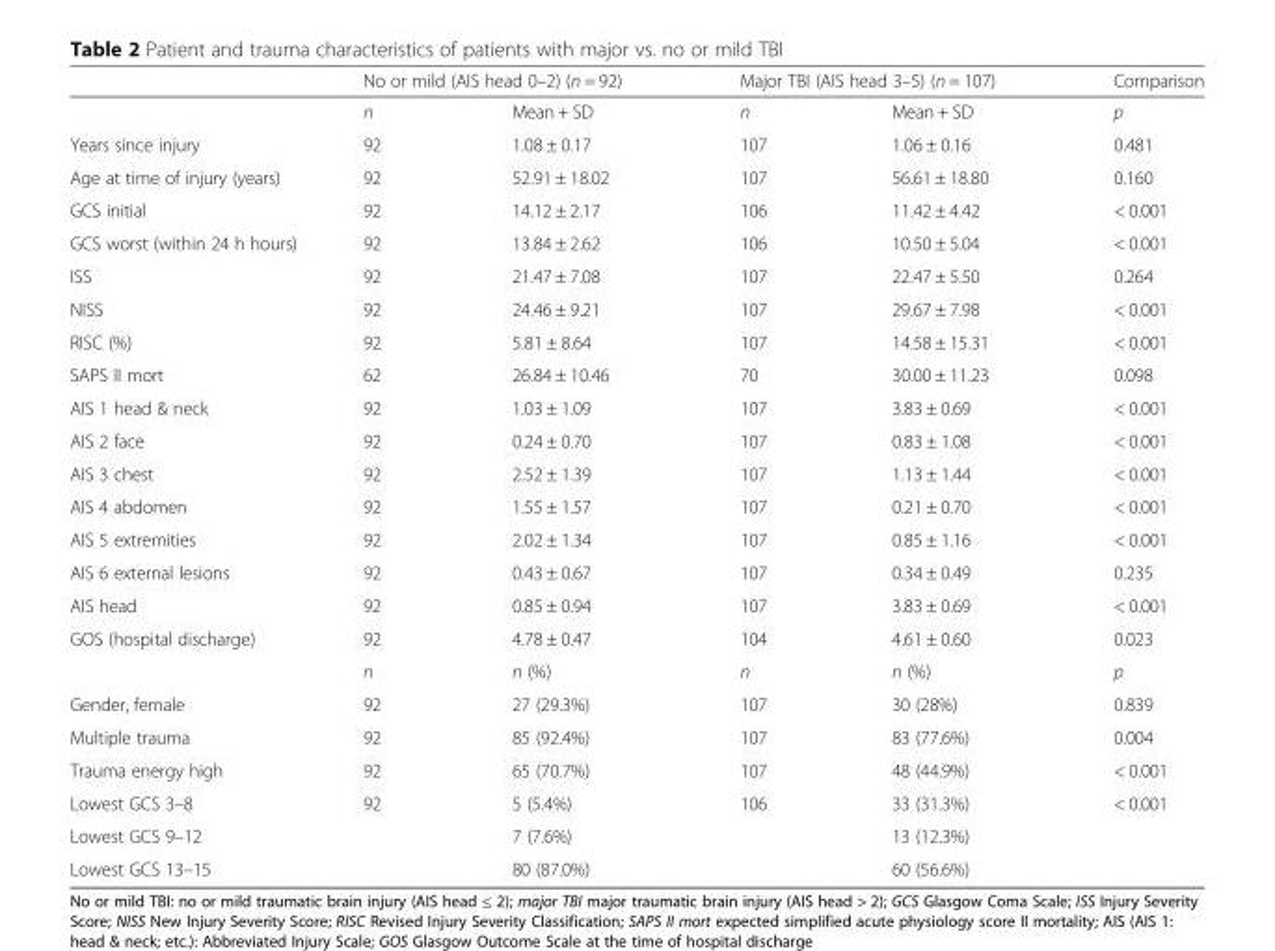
<table><thead><tr><td rowspan="2"></td><td colspan="2">No or mild (AIS head 0–2) (n = 92)</td><td colspan="2">Major TBI (AIS head 3–5) (n = 107)</td><td rowspan="2">Comparison p</td></tr><tr><td>n</td><td>Mean + SD</td><td>n</td><td>Mean + SD</td></tr></thead><tbody><tr><td>Years since injury</td><td>92</td><td>1.08 ± 0.17</td><td>107</td><td>1.06 ± 0.16</td><td>0.481</td></tr><tr><td>Age at time of injury (years)</td><td>92</td><td>52.91 ± 18.02</td><td>107</td><td>56.61 ± 18.80</td><td>0.160</td></tr><tr><td>GCS initial</td><td>92</td><td>14.12 ± 2.17</td><td>106</td><td>11.42 ± 4.42</td><td>&lt; 0.001</td></tr><tr><td>GCS worst (within 24 h hours)</td><td>92</td><td>13.84 ± 2.62</td><td>106</td><td>10.50 ± 5.04</td><td>&lt; 0.001</td></tr><tr><td>ISS</td><td>92</td><td>21.47 ± 7.08</td><td>107</td><td>22.47 ± 5.50</td><td>0.264</td></tr><tr><td>NISS</td><td>92</td><td>24.46 ± 9.21</td><td>107</td><td>29.67 ± 7.98</td><td>&lt; 0.001</td></tr><tr><td>RISC (%)</td><td>92</td><td>5.81 ± 8.64</td><td>107</td><td>14.58 ± 15.31</td><td>&lt; 0.001</td></tr><tr><td>SAPS II mort</td><td>62</td><td>26.84 ± 10.46</td><td>70</td><td>30.00 ± 11.23</td><td>0.098</td></tr><tr><td>AIS 1 head &amp; neck</td><td>92</td><td>1.03 ± 1.09</td><td>107</td><td>3.83 ± 0.69</td><td>&lt; 0.001</td></tr><tr><td>AIS 2 face</td><td>92</td><td>0.24 ± 0.70</td><td>107</td><td>0.83 ± 1.08</td><td>&lt; 0.001</td></tr><tr><td>AIS 3 chest</td><td>92</td><td>2.52 ± 1.39</td><td>107</td><td>1.13 ± 1.44</td><td>&lt; 0.001</td></tr><tr><td>AIS 4 abdomen</td><td>92</td><td>1.55 ± 1.57</td><td>107</td><td>0.21 ± 0.70</td><td>&lt; 0.001</td></tr><tr><td>AIS 5 extremities</td><td>92</td><td>2.02 ± 1.34</td><td>107</td><td>0.85 ± 1.16</td><td>&lt; 0.001</td></tr><tr><td>AIS 6 external lesions</td><td>92</td><td>0.43 ± 0.67</td><td>107</td><td>0.34 ± 0.49</td><td>0.235</td></tr><tr><td>AIS head</td><td>92</td><td>0.85 ± 0.94</td><td>107</td><td>3.83 ± 0.69</td><td>&lt; 0.001</td></tr><tr><td rowspan="2">GOS (hospital discharge)</td><td>92</td><td>4.78 ± 0.47</td><td>104</td><td>4.61 ± 0.60</td><td>0.023</td></tr><tr><td>n</td><td>n (%)</td><td>n</td><td>n (%)</td><td>p</td></tr><tr><td>Gender, female</td><td>92</td><td>27 (29.3%)</td><td>107</td><td>30 (28%)</td><td>0.839</td></tr><tr><td>Multiple trauma</td><td>92</td><td>85 (92.4%)</td><td>107</td><td>83 (77.6%)</td><td>0.004</td></tr><tr><td>Trauma energy high</td><td>92</td><td>65 (70.7%)</td><td>107</td><td>48 (44.9%)</td><td>&lt; 0.001</td></tr><tr><td>Lowest GCS 3–8</td><td>92</td><td>5 (5.4%)</td><td>106</td><td>33 (31.3%)</td><td>&lt; 0.001</td></tr><tr><td>Lowest GCS 9–12</td><td></td><td>7 (7.6%)</td><td></td><td>13 (12.3%)</td><td></td></tr><tr><td>Lowest GCS 13–15</td><td></td><td>80 (87.0%)</td><td></td><td>60 (56.6%)</td><td></td></tr></tbody></table>